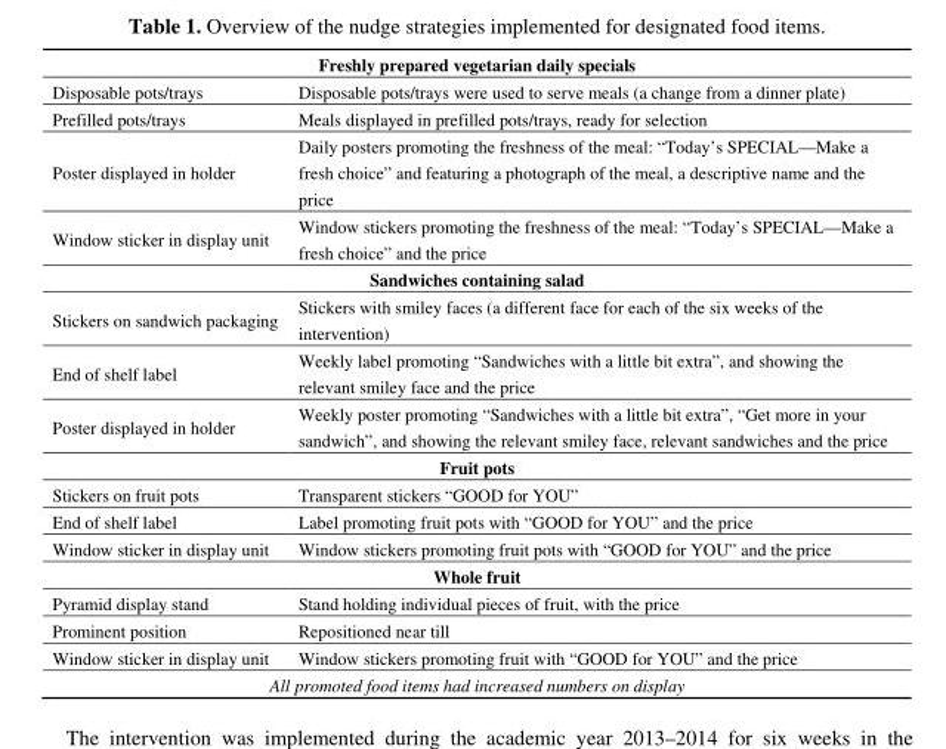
<table><tbody><tr><td colspan="2">Freshly prepared vegetarian daily specials</td></tr><tr><td>Disposable pots/trays</td><td>Disposable pots/trays were used to serve meals (a change from a dinner plate)</td></tr><tr><td>Prefilled pots/trays</td><td>Meals displayed in prefilled pots/trays, ready for selection</td></tr><tr><td>Poster displayed in holder</td><td>Daily posters promoting the freshness of the meal: “Today’s SPECIAL—Make a fresh choice” and featuring a photograph of the meal, a descriptive name and the price</td></tr><tr><td>Window sticker in display unit</td><td>Window stickers promoting the freshness of the meal: “Today’s SPECIAL—Make a fresh choice” and the price</td></tr><tr><td colspan="2">Sandwiches containing salad</td></tr><tr><td>Stickers on sandwich packaging</td><td>Stickers with smiley faces (a different face for each of the six weeks of the intervention)</td></tr><tr><td>End of shelf label</td><td>Weekly label promoting “Sandwiches with a little bit extra”, and showing the relevant smiley face and the price</td></tr><tr><td>Poster displayed in holder</td><td>Weekly poster promoting “Sandwiches with a little bit extra”, “Get more in your sandwich”, and showing the relevant smiley face, relevant sandwiches and the price</td></tr><tr><td colspan="2">Fruit pots</td></tr><tr><td>Stickers on fruit pots</td><td>Transparent stickers “GOOD for YOU”</td></tr><tr><td>End of shelf label</td><td>Label promoting fruit pots with “GOOD for YOU” and the price</td></tr><tr><td>Window sticker in display unit</td><td>Window stickers promoting fruit pots with “GOOD for YOU” and the price</td></tr><tr><td colspan="2">Whole fruit</td></tr><tr><td>Pyramid display stand</td><td>Stand holding individual pieces of fruit, with the price</td></tr><tr><td>Prominent position</td><td>Repositioned near till</td></tr><tr><td>Window sticker in display unit</td><td>Window stickers promoting fruit with “GOOD for YOU” and the price</td></tr><tr><td colspan="2">All promoted food items had increased numbers on display</td></tr></tbody></table>